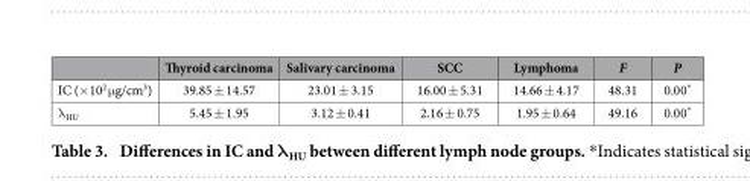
<table><thead><tr><td></td><td>Thyroid carcinoma</td><td>Salivary carcinoma</td><td>SCC</td><td>Lymphoma</td><td>F</td><td>P</td></tr></thead><tbody><tr><td>IC (× 10<sup>2</sup> μ g/cm<sup>3</sup>)</td><td>39.85 ± 14.57</td><td>23.01 ± 3.15</td><td>16.00 ± 5.31</td><td>14.66 ± 4.17</td><td>48.31</td><td>0.00*</td></tr><tr><td>λ <sub>HU</sub></td><td>5.45 ± 1.95</td><td>3.12 ± 0.41</td><td>2.16 ± 0.75</td><td>1.95 ± 0.64</td><td>49.16</td><td>0.00*</td></tr></tbody></table>